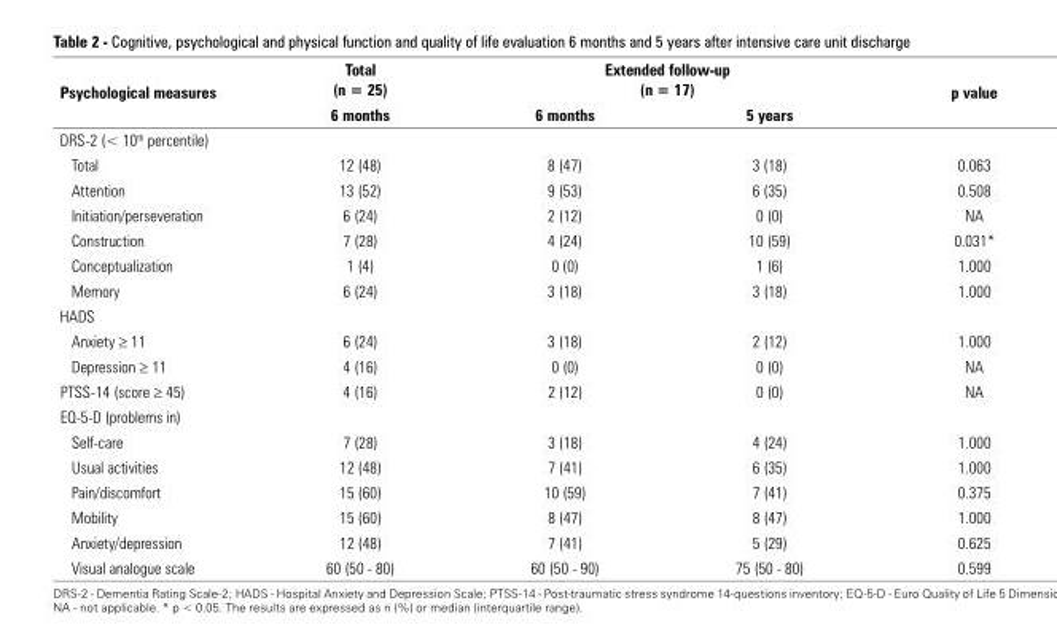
<table><thead><tr><td rowspan="2">Psychological measures</td><td rowspan="2">Total (n = 25) 6 months</td><td colspan="2">Extended follow-up (n = 17)</td><td rowspan="2">p value</td></tr><tr><td>6 months</td><td>5 years</td></tr></thead><tbody><tr><td colspan="5">DRS-2 (&lt; 10<sup>th</sup> percentile)</td></tr><tr><td>Total</td><td>12 (48)</td><td>8 (47)</td><td>3 (18)</td><td>0.063</td></tr><tr><td>Attention</td><td>13 (52)</td><td>9 (53)</td><td>6 (35)</td><td>0.508</td></tr><tr><td>Initiation/perseveration</td><td>6 (24)</td><td>2 (12)</td><td>0 (0)</td><td>NA</td></tr><tr><td>Construction</td><td>7 (28)</td><td>4 (24)</td><td>10 (59)</td><td>0.031*</td></tr><tr><td>Conceptualization</td><td>1 (4)</td><td>0 (0)</td><td>1 (6)</td><td>1.000</td></tr><tr><td>Memory</td><td>6 (24)</td><td>3 (18)</td><td>3 (18)</td><td>1.000</td></tr><tr><td colspan="5">HADS</td></tr><tr><td>Anxiety ≥ 11</td><td>6 (24)</td><td>3 (18)</td><td>2 (12)</td><td>1.000</td></tr><tr><td>Depression ≥ 11</td><td>4 (16)</td><td>0 (0)</td><td>0 (0)</td><td>NA</td></tr><tr><td>PTSS-14 (score ≥ 45)</td><td>4 (16)</td><td>2 (12)</td><td>0 (0)</td><td>NA</td></tr><tr><td colspan="5">EQ-5-D (problems in)</td></tr><tr><td>Self-care</td><td>7 (28)</td><td>3 (18)</td><td>4 (24)</td><td>1.000</td></tr><tr><td>Usual activities</td><td>12 (48)</td><td>7 (41)</td><td>6 (35)</td><td>1.000</td></tr><tr><td>Pain/discomfort</td><td>15 (60)</td><td>10 (59)</td><td>7 (41)</td><td>0.375</td></tr><tr><td>Mobility</td><td>15 (60)</td><td>8 (47)</td><td>8 (47)</td><td>1.000</td></tr><tr><td>Anxiety/depression</td><td>12 (48)</td><td>7 (41)</td><td>5 (29)</td><td>0.625</td></tr><tr><td>Visual analogue scale</td><td>60 (50 - 80)</td><td>60 (50 - 90)</td><td>75 (50 - 80)</td><td>0.599</td></tr></tbody></table>